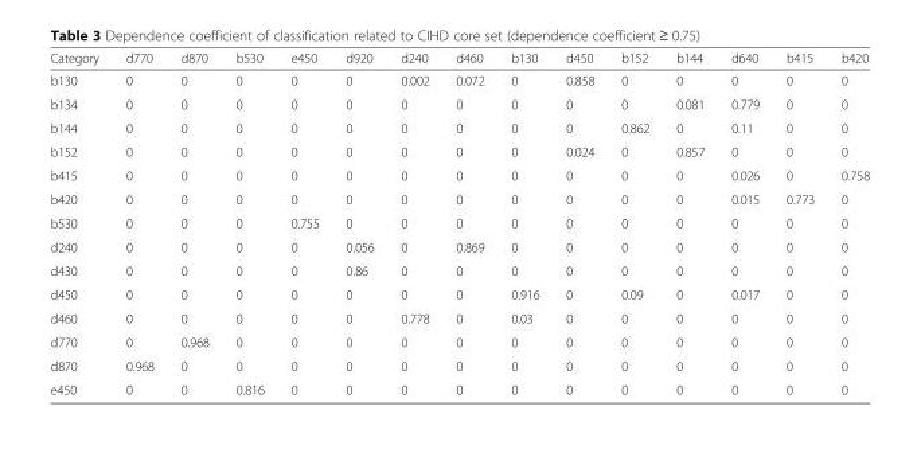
<table><thead><tr><td>Category</td><td>d770</td><td>d870</td><td>b530</td><td>e450</td><td>d920</td><td>d240</td><td>d460</td><td>b130</td><td>d450</td><td>b152</td><td>b144</td><td>d640</td><td>b415</td><td>b420</td></tr></thead><tbody><tr><td>b130</td><td>0</td><td>0</td><td>0</td><td>0</td><td>0</td><td>0.002</td><td>0.072</td><td>0</td><td>0.858</td><td>0</td><td>0</td><td>0</td><td>0</td><td>0</td></tr><tr><td>b134</td><td>0</td><td>0</td><td>0</td><td>0</td><td>0</td><td>0</td><td>0</td><td>0</td><td>0</td><td>0</td><td>0.081</td><td>0.779</td><td>0</td><td>0</td></tr><tr><td>b144</td><td>0</td><td>0</td><td>0</td><td>0</td><td>0</td><td>0</td><td>0</td><td>0</td><td>0</td><td>0.862</td><td>0</td><td>0.11</td><td>0</td><td>0</td></tr><tr><td>b152</td><td>0</td><td>0</td><td>0</td><td>0</td><td>0</td><td>0</td><td>0</td><td>0</td><td>0.024</td><td>0</td><td>0.857</td><td>0</td><td>0</td><td>0</td></tr><tr><td>b415</td><td>0</td><td>0</td><td>0</td><td>0</td><td>0</td><td>0</td><td>0</td><td>0</td><td>0</td><td>0</td><td>0</td><td>0.026</td><td>0</td><td>0.758</td></tr><tr><td>b420</td><td>0</td><td>0</td><td>0</td><td>0</td><td>0</td><td>0</td><td>0</td><td>0</td><td>0</td><td>0</td><td>0</td><td>0.015</td><td>0.773</td><td>0</td></tr><tr><td>b530</td><td>0</td><td>0</td><td>0</td><td>0.755</td><td>0</td><td>0</td><td>0</td><td>0</td><td>0</td><td>0</td><td>0</td><td>0</td><td>0</td><td>0</td></tr><tr><td>d240</td><td>0</td><td>0</td><td>0</td><td>0</td><td>0.056</td><td>0</td><td>0.869</td><td>0</td><td>0</td><td>0</td><td>0</td><td>0</td><td>0</td><td>0</td></tr><tr><td>d430</td><td>0</td><td>0</td><td>0</td><td>0</td><td>0.86</td><td>0</td><td>0</td><td>0</td><td>0</td><td>0</td><td>0</td><td>0</td><td>0</td><td>0</td></tr><tr><td>d450</td><td>0</td><td>0</td><td>0</td><td>0</td><td>0</td><td>0</td><td>0</td><td>0.916</td><td>0</td><td>0.09</td><td>0</td><td>0.017</td><td>0</td><td>0</td></tr><tr><td>d460</td><td>0</td><td>0</td><td>0</td><td>0</td><td>0</td><td>0.778</td><td>0</td><td>0.03</td><td>0</td><td>0</td><td>0</td><td>0</td><td>0</td><td>0</td></tr><tr><td>d770</td><td>0</td><td>0.968</td><td>0</td><td>0</td><td>0</td><td>0</td><td>0</td><td>0</td><td>0</td><td>0</td><td>0</td><td>0</td><td>0</td><td>0</td></tr><tr><td>d870</td><td>0.968</td><td>0</td><td>0</td><td>0</td><td>0</td><td>0</td><td>0</td><td>0</td><td>0</td><td>0</td><td>0</td><td>0</td><td>0</td><td>0</td></tr><tr><td>e450</td><td>0</td><td>0</td><td>0.816</td><td>0</td><td>0</td><td>0</td><td>0</td><td>0</td><td>0</td><td>0</td><td>0</td><td>0</td><td>0</td><td>0</td></tr></tbody></table>